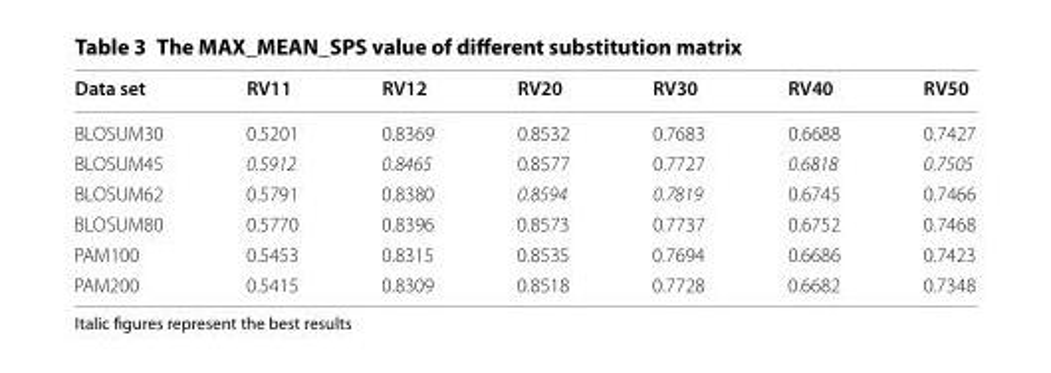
<table><thead><tr><td>Data set</td><td>RV11</td><td>RV12</td><td>RV20</td><td>RV30</td><td>RV40</td><td>RV50</td></tr></thead><tbody><tr><td>BLOSUM30</td><td>0.5201</td><td>0.8369</td><td>0.8532</td><td>0.7683</td><td>0.6688</td><td>0.7427</td></tr><tr><td>BLOSUM45</td><td>0.5912</td><td>0.8465</td><td>0.8577</td><td>0.7727</td><td>0.6818</td><td>0.7505</td></tr><tr><td>BLOSUM62</td><td>0.5791</td><td>0.8380</td><td>0.8594</td><td>0.7819</td><td>0.6745</td><td>0.7466</td></tr><tr><td>BLOSUM80</td><td>0.5770</td><td>0.8396</td><td>0.8573</td><td>0.7737</td><td>0.6752</td><td>0.7468</td></tr><tr><td>PAM100</td><td>0.5453</td><td>0.8315</td><td>0.8535</td><td>0.7694</td><td>0.6686</td><td>0.7423</td></tr><tr><td>PAM200</td><td>0.5415</td><td>0.8309</td><td>0.8518</td><td>0.7728</td><td>0.6682</td><td>0.7348</td></tr></tbody></table>